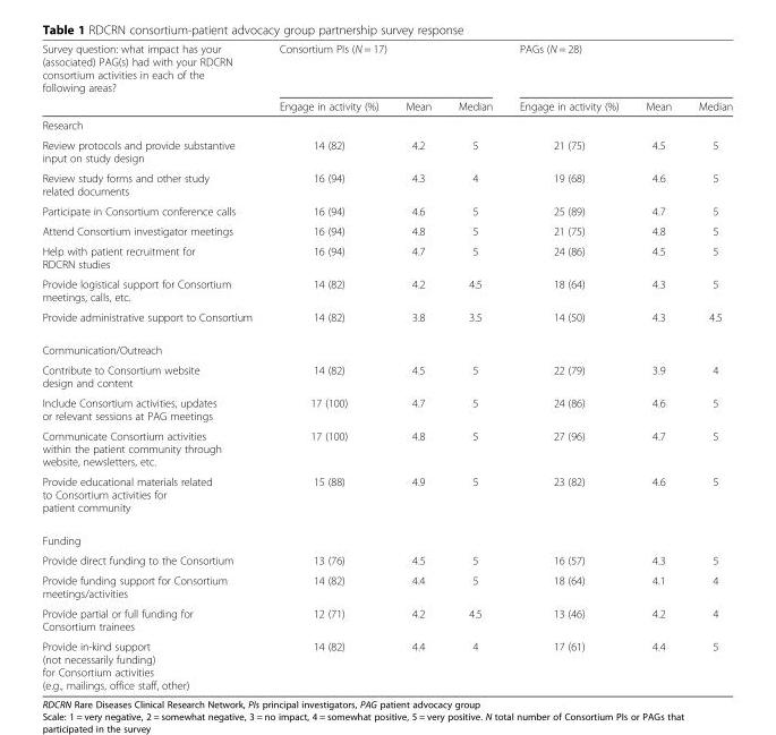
<table><thead><tr><td rowspan="2">Survey question: what impact has your (associated) PAG(s) had with your RDCRN consortium activities in each of the following areas?</td><td colspan="3">Consortium PIs (N = 17)</td><td colspan="3">PAGs (N = 28)</td></tr><tr><td>Engage in activity (%)</td><td>Mean</td><td>Median</td><td>Engage in activity (%)</td><td>Mean</td><td>Median</td></tr></thead><tbody><tr><td colspan="7">Research</td></tr><tr><td>Review protocols and provide substantive input on study design</td><td>14 (82)</td><td>4.2</td><td>5</td><td>21 (75)</td><td>4.5</td><td>5</td></tr><tr><td>Review study forms and other study related documents</td><td>16 (94)</td><td>4.3</td><td>4</td><td>19 (68)</td><td>4.6</td><td>5</td></tr><tr><td>Participate in Consortium conference calls</td><td>16 (94)</td><td>4.6</td><td>5</td><td>25 (89)</td><td>4.7</td><td>5</td></tr><tr><td>Attend Consortium investigator meetings</td><td>16 (94)</td><td>4.8</td><td>5</td><td>21 (75)</td><td>4.8</td><td>5</td></tr><tr><td>Help with patient recruitment for RDCRN studies</td><td>16 (94)</td><td>4.7</td><td>5</td><td>24 (86)</td><td>4.5</td><td>5</td></tr><tr><td>Provide logistical support for Consortium meetings, calls, etc.</td><td>14 (82)</td><td>4.2</td><td>4.5</td><td>18 (64)</td><td>4.3</td><td>5</td></tr><tr><td>Provide administrative support to Consortium</td><td>14 (82)</td><td>3.8</td><td>3.5</td><td>14 (50)</td><td>4.3</td><td>4.5</td></tr><tr><td colspan="7">Communication/Outreach</td></tr><tr><td>Contribute to Consortium website design and content</td><td>14 (82)</td><td>4.5</td><td>5</td><td>22 (79)</td><td>3.9</td><td>4</td></tr><tr><td>Include Consortium activities, updates or relevant sessions at PAG meetings</td><td>17 (100)</td><td>4.7</td><td>5</td><td>24 (86)</td><td>4.6</td><td>5</td></tr><tr><td>Communicate Consortium activities within the patient community through website, newsletters, etc.</td><td>17 (100)</td><td>4.8</td><td>5</td><td>27 (96)</td><td>4.7</td><td>5</td></tr><tr><td>Provide educational materials related to Consortium activities for patient community</td><td>15 (88)</td><td>4.9</td><td>5</td><td>23 (82)</td><td>4.6</td><td>5</td></tr><tr><td colspan="7">Funding</td></tr><tr><td>Provide direct funding to the Consortium</td><td>13 (76)</td><td>4.5</td><td>5</td><td>16 (57)</td><td>4.3</td><td>5</td></tr><tr><td>Provide funding support for Consortium meetings/activities</td><td>14 (82)</td><td>4.4</td><td>5</td><td>18 (64)</td><td>4.1</td><td>4</td></tr><tr><td>Provide partial or full funding for Consortium trainees</td><td>12 (71)</td><td>4.2</td><td>4.5</td><td>13 (46)</td><td>4.2</td><td>4</td></tr><tr><td>Provide in-kind support (not necessarily funding) for Consortium activities (e.g., mailings, office staff, other)</td><td>14 (82)</td><td>4.4</td><td>4</td><td>17 (61)</td><td>4.4</td><td>5</td></tr></tbody></table>